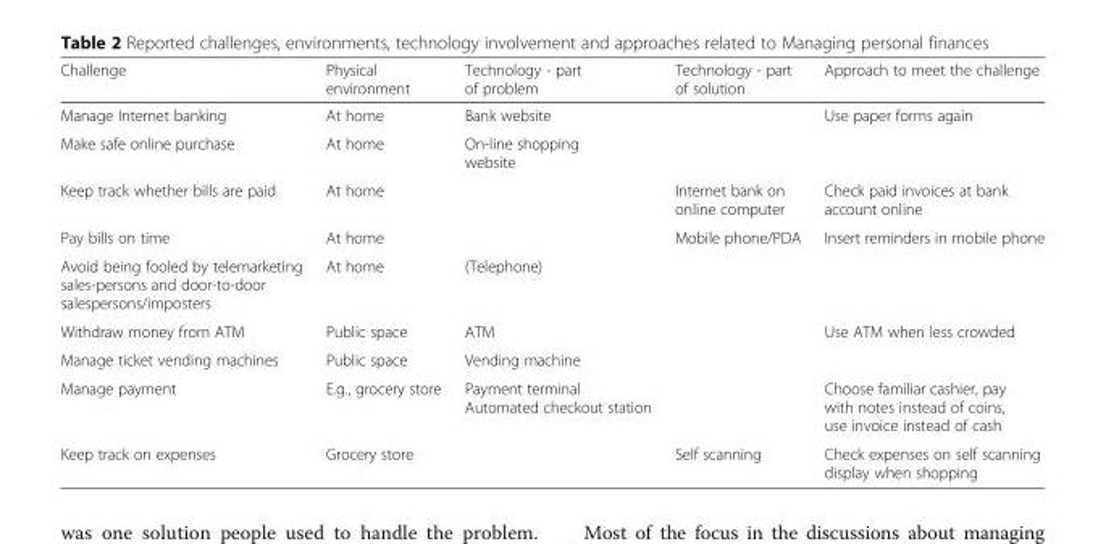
<table><thead><tr><td>Challenge</td><td>Physical environment</td><td>Technology - part of problem</td><td>Technology - part of solution</td><td>Approach to meet the challenge</td></tr></thead><tbody><tr><td>Manage Internet banking</td><td>At home</td><td>Bank website</td><td></td><td>Use paper forms again</td></tr><tr><td>Make safe online purchase</td><td>At home</td><td>On-line shopping website</td><td></td><td></td></tr><tr><td>Keep track whether bills are paid</td><td>At home</td><td></td><td>Internet bank on online computer</td><td>Check paid invoices at bank account online</td></tr><tr><td>Pay bills on time</td><td>At home</td><td></td><td>Mobile phone/PDA</td><td>Insert reminders in mobile phone</td></tr><tr><td>Avoid being fooled by telemarketing sales-persons and door-to-door salespersons/imposters</td><td>At home</td><td>(Telephone)</td><td></td><td></td></tr><tr><td>Withdraw money from ATM</td><td>Public space</td><td>ATM</td><td></td><td>Use ATM when less crowded</td></tr><tr><td>Manage ticket vending machines</td><td>Public space</td><td>Vending machine</td><td></td><td></td></tr><tr><td>Manage payment</td><td>E.g., grocery store</td><td>Payment terminal Automated checkout station</td><td></td><td>Choose familiar cashier, pay with notes instead of coins, use invoice instead of cash</td></tr><tr><td>Keep track on expenses</td><td>Grocery store</td><td></td><td>Self scanning</td><td>Check expenses on self scanning display when shopping</td></tr></tbody></table>